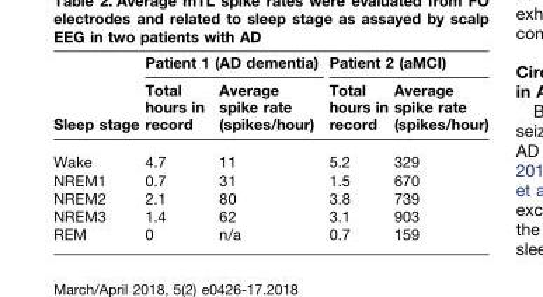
<table><thead><tr><td rowspan="2">Sleep stage</td><td colspan="2">Patient 1 (AD dementia)</td><td colspan="2">Patient 2 (aMCI)</td></tr><tr><td>Total hours in record</td><td>Average spike rate (spikes/hour)</td><td>Total hours in record</td><td>Average spike rate (spikes/hour)</td></tr></thead><tbody><tr><td>Wake</td><td>4.7</td><td>11</td><td>5.2</td><td>329</td></tr><tr><td>NREM1</td><td>0.7</td><td>31</td><td>1.5</td><td>670</td></tr><tr><td>NREM2</td><td>2.1</td><td>80</td><td>3.8</td><td>739</td></tr><tr><td>NREM3</td><td>1.4</td><td>62</td><td>3.1</td><td>903</td></tr><tr><td>REM</td><td>0</td><td>n/a</td><td>0.7</td><td>159</td></tr></tbody></table>